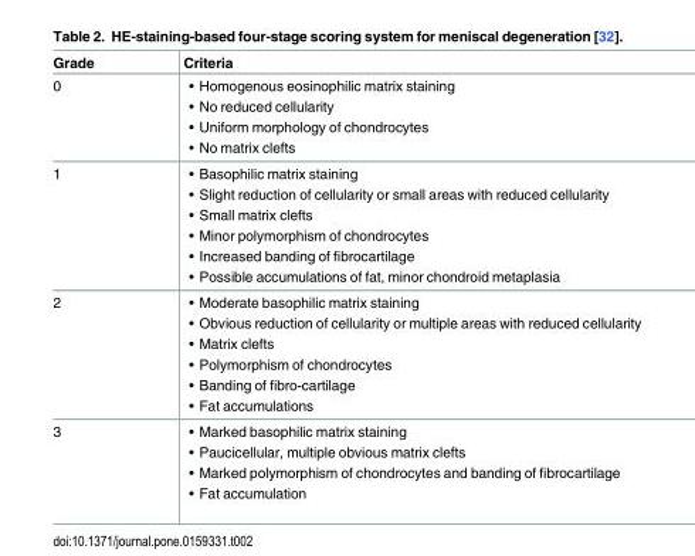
<table><thead><tr><td>Grade</td><td>Criteria</td></tr></thead><tbody><tr><td>0</td><td>• Homogenous eosinophilic matrix staining • No reduced cellularity • Uniform morphology of chondrocytes • No matrix clefts</td></tr><tr><td>1</td><td>• Basophilic matrix staining • Slight reduction of cellularity or small areas with reduced cellularity • Small matrix clefts • Minor polymorphism of chondrocytes • Increased banding of fibrocartilage • Possible accumulations of fat, minor chondroid metaplasia</td></tr><tr><td>2</td><td>• Moderate basophilic matrix staining • Obvious reduction of cellularity or multiple areas with reduced cellularity • Matrix clefts • Polymorphism of chondrocytes • Banding of fibro-cartilage • Fat accumulations</td></tr><tr><td>3</td><td>• Marked basophilic matrix staining • Paucicellular, multiple obvious matrix clefts • Marked polymorphism of chondrocytes and banding of fibrocartilage • Fat accumulation</td></tr></tbody></table>